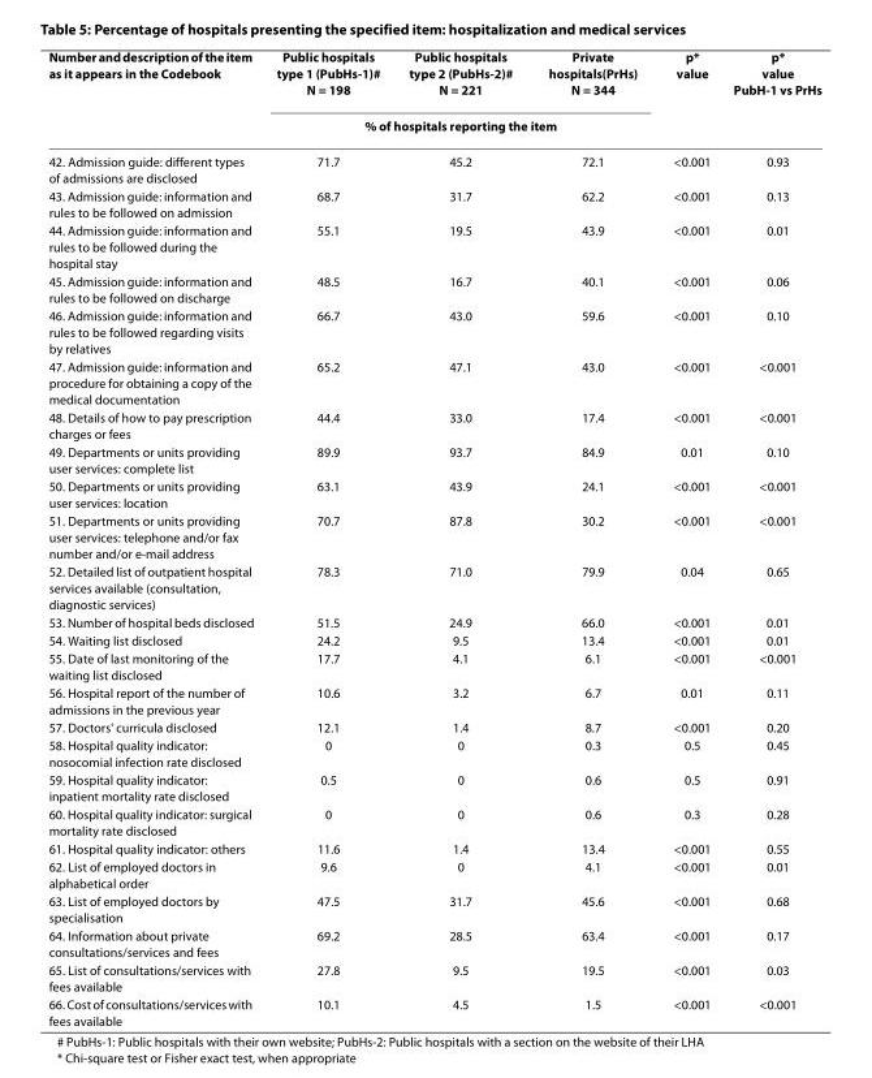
<table><thead><tr><td rowspan="2">Number and description of the item as it appears in the Codebook</td><td>Public hospitals type 1 (PubHs-1)# N = 198</td><td>Public hospitals type 2 (PubHs-2)# N = 221</td><td>Private hospitals(PrHs) N = 344</td><td rowspan="2">p* value</td><td rowspan="2">p* value PubH-1 vs PrHs</td></tr><tr><td colspan="3">% of hospitals reporting the item</td></tr></thead><tbody><tr><td>42. Admission guide: different types of admissions are disclosed</td><td>71.7</td><td>45.2</td><td>72.1</td><td>&lt;0.001</td><td>0.93</td></tr><tr><td>43. Admission guide: information and rules to be followed on admission</td><td>68.7</td><td>31.7</td><td>62.2</td><td>&lt;0.001</td><td>0.13</td></tr><tr><td>44. Admission guide: information and rules to be followed during the hospital stay</td><td>55.1</td><td>19.5</td><td>43.9</td><td>&lt;0.001</td><td>0.01</td></tr><tr><td>45. Admission guide: information and rules to be followed on discharge</td><td>48.5</td><td>16.7</td><td>40.1</td><td>&lt;0.001</td><td>0.06</td></tr><tr><td>46. Admission guide: information and rules to be followed regarding visits by relatives</td><td>66.7</td><td>43.0</td><td>59.6</td><td>&lt;0.001</td><td>0.10</td></tr><tr><td>47. Admission guide: information and procedure for obtaining a copy of the medical documentation</td><td>65.2</td><td>47.1</td><td>43.0</td><td>&lt;0.001</td><td>&lt;0.001</td></tr><tr><td>48. Details of how to pay prescription charges or fees</td><td>44.4</td><td>33.0</td><td>17.4</td><td>&lt;0.001</td><td>&lt;0.001</td></tr><tr><td>49. Departments or units providing user services: complete list</td><td>89.9</td><td>93.7</td><td>84.9</td><td>0.01</td><td>0.10</td></tr><tr><td>50. Departments or units providing user services: location</td><td>63.1</td><td>43.9</td><td>24.1</td><td>&lt;0.001</td><td>&lt;0.001</td></tr><tr><td>51. Departments or units providing user services: telephone and/or fax number and/or e-mail address</td><td>70.7</td><td>87.8</td><td>30.2</td><td>&lt;0.001</td><td>&lt;0.001</td></tr><tr><td>52. Detailed list of outpatient hospital services available (consultation, diagnostic services)</td><td>78.3</td><td>71.0</td><td>79.9</td><td>0.04</td><td>0.65</td></tr><tr><td>53. Number of hospital beds disclosed</td><td>51.5</td><td>24.9</td><td>66.0</td><td>&lt;0.001</td><td>0.01</td></tr><tr><td>54. Waiting list disclosed</td><td>24.2</td><td>9.5</td><td>13.4</td><td>&lt;0.001</td><td>0.01</td></tr><tr><td>55. Date of last monitoring of the waiting list disclosed</td><td>17.7</td><td>4.1</td><td>6.1</td><td>&lt;0.001</td><td>&lt;0.001</td></tr><tr><td>56. Hospital report of the number of admissions in the previous year</td><td>10.6</td><td>3.2</td><td>6.7</td><td>0.01</td><td>0.11</td></tr><tr><td>57. Doctors&#x27; curricula disclosed</td><td>12.1</td><td>1.4</td><td>8.7</td><td>&lt;0.001</td><td>0.20</td></tr><tr><td>58. Hospital quality indicator: nosocomial infection rate disclosed</td><td>0</td><td>0</td><td>0.3</td><td>0.5</td><td>0.45</td></tr><tr><td>59. Hospital quality indicator: inpatient mortality rate disclosed</td><td>0.5</td><td>0</td><td>0.6</td><td>0.5</td><td>0.91</td></tr><tr><td>60. Hospital quality indicator: surgical mortality rate disclosed</td><td>0</td><td>0</td><td>0.6</td><td>0.3</td><td>0.28</td></tr><tr><td>61. Hospital quality indicator: others</td><td>11.6</td><td>1.4</td><td>13.4</td><td>&lt;0.001</td><td>0.55</td></tr><tr><td>62. List of employed doctors in alphabetical order</td><td>9.6</td><td>0</td><td>4.1</td><td>&lt;0.001</td><td>0.01</td></tr><tr><td>63. List of employed doctors by specialisation</td><td>47.5</td><td>31.7</td><td>45.6</td><td>&lt;0.001</td><td>0.68</td></tr><tr><td>64. Information about private consultations/services and fees</td><td>69.2</td><td>28.5</td><td>63.4</td><td>&lt;0.001</td><td>0.17</td></tr><tr><td>65. List of consultations/services with fees available</td><td>27.8</td><td>9.5</td><td>19.5</td><td>&lt;0.001</td><td>0.03</td></tr><tr><td>66. Cost of consultations/services with fees available</td><td>10.1</td><td>4.5</td><td>1.5</td><td>&lt;0.001</td><td>&lt;0.001</td></tr></tbody></table>